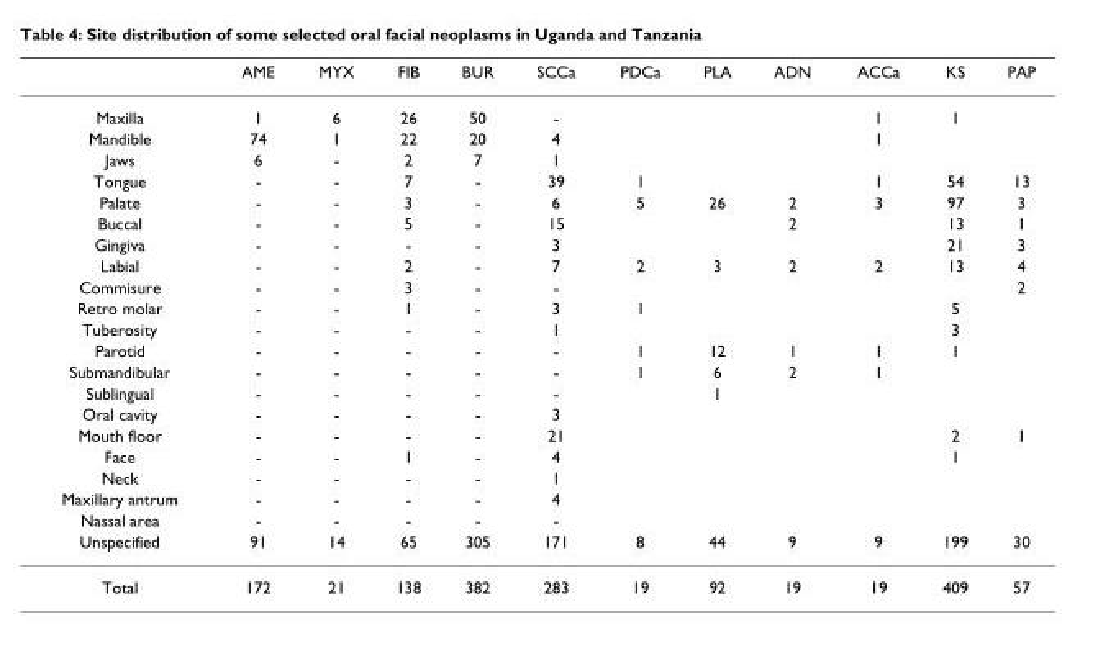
<table><thead><tr><td></td><td>AME</td><td>MYX</td><td>FIB</td><td>BUR</td><td>SCCa</td><td>PDCa</td><td>PLA</td><td>ADN</td><td>ACCa</td><td>KS</td><td>PAP</td></tr></thead><tbody><tr><td>Maxilla</td><td>1</td><td>6</td><td>26</td><td>50</td><td>-</td><td></td><td></td><td></td><td>1</td><td>1</td><td></td></tr><tr><td>Mandible</td><td>74</td><td>1</td><td>22</td><td>20</td><td>4</td><td></td><td></td><td></td><td>1</td><td></td><td></td></tr><tr><td>Jaws</td><td>6</td><td>-</td><td>2</td><td>7</td><td>1</td><td></td><td></td><td></td><td></td><td></td><td></td></tr><tr><td>Tongue</td><td>-</td><td>-</td><td>7</td><td>-</td><td>39</td><td>1</td><td></td><td></td><td>1</td><td>54</td><td>13</td></tr><tr><td>Palate</td><td>-</td><td>-</td><td>3</td><td>-</td><td>6</td><td>5</td><td>26</td><td>2</td><td>3</td><td>97</td><td>3</td></tr><tr><td>Buccal</td><td>-</td><td>-</td><td>5</td><td>-</td><td>15</td><td></td><td></td><td>2</td><td></td><td>13</td><td>1</td></tr><tr><td>Gingiva</td><td>-</td><td>-</td><td>-</td><td>-</td><td>3</td><td></td><td></td><td></td><td></td><td>21</td><td>3</td></tr><tr><td>Labial</td><td>-</td><td>-</td><td>2</td><td>-</td><td>7</td><td>2</td><td>3</td><td>2</td><td>2</td><td>13</td><td>4</td></tr><tr><td>Commisure</td><td>-</td><td>-</td><td>3</td><td>-</td><td>-</td><td></td><td></td><td></td><td></td><td></td><td>2</td></tr><tr><td>Retro molar</td><td>-</td><td>-</td><td>1</td><td>-</td><td>3</td><td>1</td><td></td><td></td><td></td><td>5</td><td></td></tr><tr><td>Tuberosity</td><td>-</td><td>-</td><td>-</td><td>-</td><td>1</td><td></td><td></td><td></td><td></td><td>3</td><td></td></tr><tr><td>Parotid</td><td>-</td><td>-</td><td>-</td><td>-</td><td>-</td><td>1</td><td>12</td><td>1</td><td>1</td><td>1</td><td></td></tr><tr><td>Submandibular</td><td>-</td><td>-</td><td>-</td><td>-</td><td>-</td><td>1</td><td>6</td><td>2</td><td>1</td><td></td><td></td></tr><tr><td>Sublingual</td><td>-</td><td>-</td><td>-</td><td>-</td><td>-</td><td></td><td>1</td><td></td><td></td><td></td><td></td></tr><tr><td>Oral cavity</td><td>-</td><td>-</td><td>-</td><td>-</td><td>3</td><td></td><td></td><td></td><td></td><td></td><td></td></tr><tr><td>Mouth floor</td><td>-</td><td>-</td><td>-</td><td>-</td><td>21</td><td></td><td></td><td></td><td></td><td>2</td><td>1</td></tr><tr><td>Face</td><td>-</td><td>-</td><td>1</td><td>-</td><td>4</td><td></td><td></td><td></td><td></td><td>1</td><td></td></tr><tr><td>Neck</td><td>-</td><td>-</td><td>-</td><td>-</td><td>1</td><td></td><td></td><td></td><td></td><td></td><td></td></tr><tr><td>Maxillary antrum</td><td>-</td><td>-</td><td>-</td><td>-</td><td>4</td><td></td><td></td><td></td><td></td><td></td><td></td></tr><tr><td>Nassal area</td><td>-</td><td>-</td><td>-</td><td>-</td><td>-</td><td></td><td></td><td></td><td></td><td></td><td></td></tr><tr><td>Unspecified</td><td>91</td><td>14</td><td>65</td><td>305</td><td>171</td><td>8</td><td>44</td><td>9</td><td>9</td><td>199</td><td>30</td></tr><tr><td>Total</td><td>172</td><td>21</td><td>138</td><td>382</td><td>283</td><td>19</td><td>92</td><td>19</td><td>19</td><td>409</td><td>57</td></tr></tbody></table>